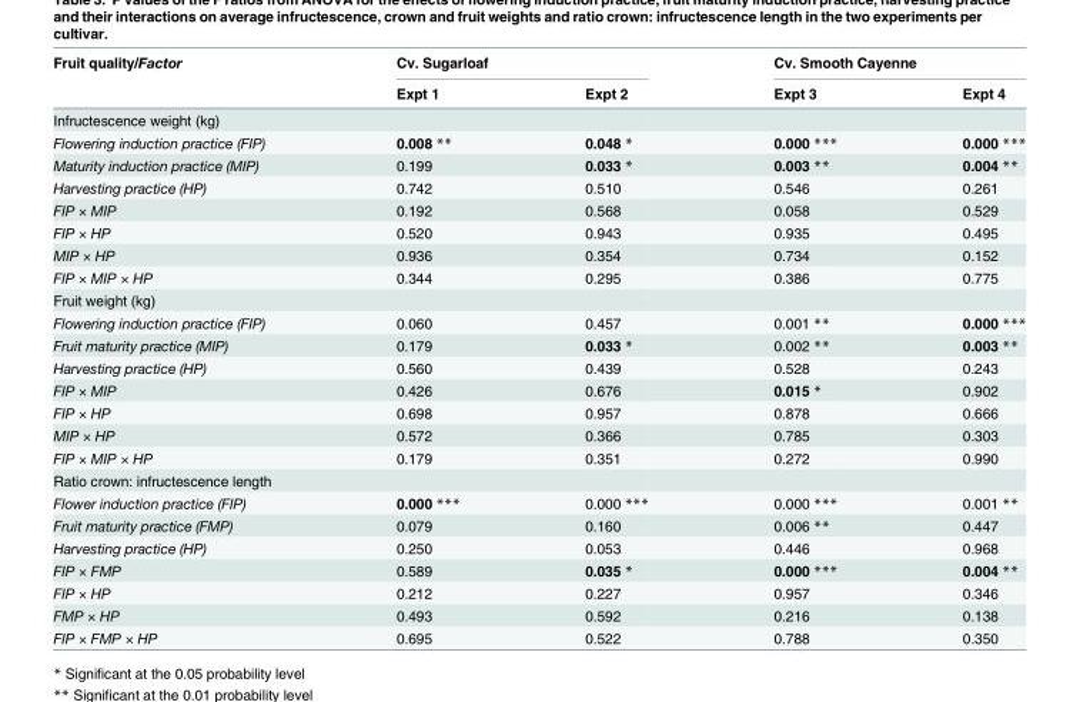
<table><thead><tr><td rowspan="2">Fruit quality/Factor</td><td colspan="2">Cv. Sugarloaf</td><td colspan="2">Cv. Smooth Cayenne</td></tr><tr><td>Expt 1</td><td>Expt 2</td><td>Expt 3</td><td>Expt 4</td></tr></thead><tbody><tr><td colspan="5">Infructescence weight (kg)</td></tr><tr><td>Flowering induction practice (FIP)</td><td>0.008 **</td><td>0.048 *</td><td>0.000 ***</td><td>0.000 ***</td></tr><tr><td>Maturity induction practice (MIP)</td><td>0.199</td><td>0.033 *</td><td>0.003 **</td><td>0.004 **</td></tr><tr><td>Harvesting practice (HP)</td><td>0.742</td><td>0.510</td><td>0.546</td><td>0.261</td></tr><tr><td>FIP × MIP</td><td>0.192</td><td>0.568</td><td>0.058</td><td>0.529</td></tr><tr><td>FIP × HP</td><td>0.520</td><td>0.943</td><td>0.935</td><td>0.495</td></tr><tr><td>MIP × HP</td><td>0.936</td><td>0.354</td><td>0.734</td><td>0.152</td></tr><tr><td>FIP × MIP × HP</td><td>0.344</td><td>0.295</td><td>0.386</td><td>0.775</td></tr><tr><td colspan="5">Fruit weight (kg)</td></tr><tr><td>Flowering induction practice (FIP)</td><td>0.060</td><td>0.457</td><td>0.001 **</td><td>0.000 ***</td></tr><tr><td>Fruit maturity practice (MIP)</td><td>0.179</td><td>0.033 *</td><td>0.002 **</td><td>0.003 **</td></tr><tr><td>Harvesting practice (HP)</td><td>0.560</td><td>0.439</td><td>0.528</td><td>0.243</td></tr><tr><td>FIP × MIP</td><td>0.426</td><td>0.676</td><td>0.015 *</td><td>0.902</td></tr><tr><td>FIP × HP</td><td>0.698</td><td>0.957</td><td>0.878</td><td>0.666</td></tr><tr><td>MIP × HP</td><td>0.572</td><td>0.366</td><td>0.785</td><td>0.303</td></tr><tr><td>FIP × MIP × HP</td><td>0.179</td><td>0.351</td><td>0.272</td><td>0.990</td></tr><tr><td colspan="5">Ratio crown: infructescence length</td></tr><tr><td>Flower induction practice (FIP)</td><td>0.000 ***</td><td>0.000 ***</td><td>0.000 ***</td><td>0.001 **</td></tr><tr><td>Fruit maturity practice (FMP)</td><td>0.079</td><td>0.160</td><td>0.006 **</td><td>0.447</td></tr><tr><td>Harvesting practice (HP)</td><td>0.250</td><td>0.053</td><td>0.446</td><td>0.968</td></tr><tr><td>FIP × FMP</td><td>0.589</td><td>0.035 *</td><td>0.000 ***</td><td>0.004 **</td></tr><tr><td>FIP × HP</td><td>0.212</td><td>0.227</td><td>0.957</td><td>0.346</td></tr><tr><td>FMP × HP</td><td>0.493</td><td>0.592</td><td>0.216</td><td>0.138</td></tr><tr><td>FIP × FMP × HP</td><td>0.695</td><td>0.522</td><td>0.788</td><td>0.350</td></tr></tbody></table>